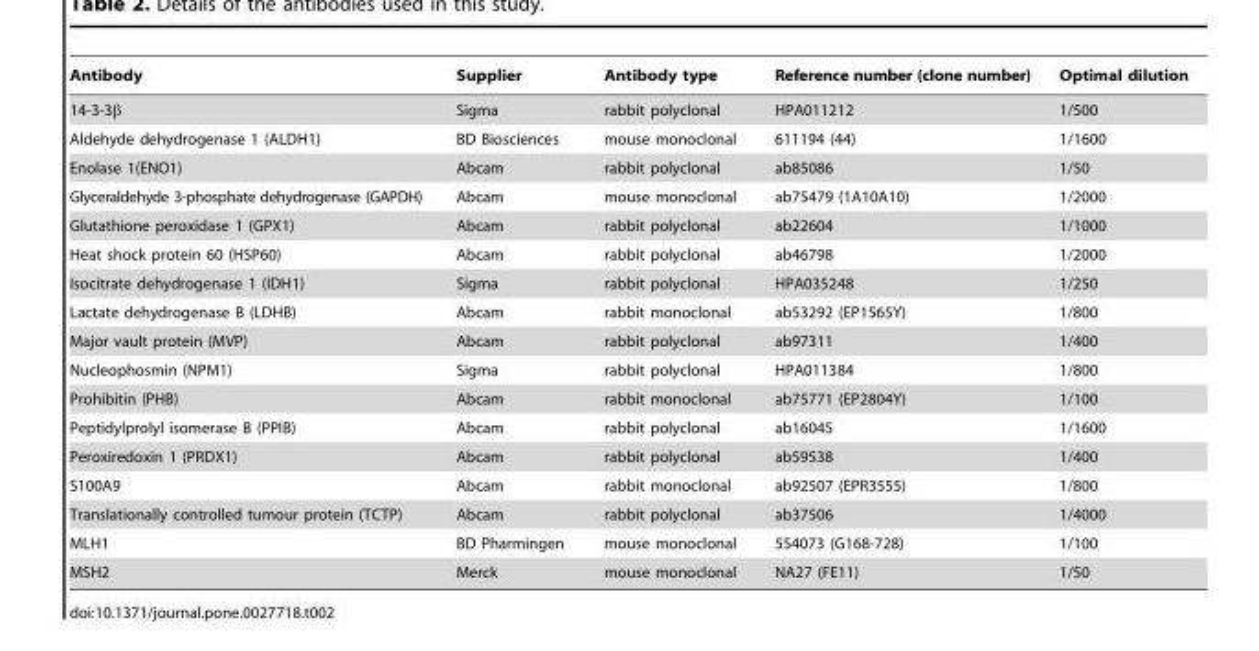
<table><thead><tr><td>Antibody</td><td>Supplier</td><td>Antibody type</td><td>Reference number (clone number)</td><td>Optimal dilution</td></tr></thead><tbody><tr><td>14-3-3β</td><td>Sigma</td><td>rabbit polyclonal</td><td>HPA011212</td><td>1/500</td></tr><tr><td>Aldehyde dehydrogenase 1 (ALDH1)</td><td>BD Biosciences</td><td>mouse monoclonal</td><td>611194 (44)</td><td>1/1600</td></tr><tr><td>Enolase 1(ENO1)</td><td>Abcam</td><td>rabbit polyclonal</td><td>ab85086</td><td>1/50</td></tr><tr><td>Glyceraldehyde 3-phosphate dehydrogenase (GAPDH)</td><td>Abcam</td><td>mouse monoclonal</td><td>ab75479 (1A10A10)</td><td>1/2000</td></tr><tr><td>Glutathione peroxidase 1 (GPX1)</td><td>Abcam</td><td>rabbit polyclonal</td><td>ab22604</td><td>1/1000</td></tr><tr><td>Heat shock protein 60 (HSP60)</td><td>Abcam</td><td>rabbit polyclonal</td><td>ab46798</td><td>1/2000</td></tr><tr><td>Isocitrate dehydrogenase 1 (IDH1)</td><td>Sigma</td><td>rabbit polyclonal</td><td>HPA035248</td><td>1/250</td></tr><tr><td>Lactate dehydrogenase B (LDHB)</td><td>Abcam</td><td>rabbit monoclonal</td><td>ab53292 (EP1565Y)</td><td>1/800</td></tr><tr><td>Major vault protein (MVP)</td><td>Abcam</td><td>rabbit polyclonal</td><td>ab97311</td><td>1/400</td></tr><tr><td>Nucleophosmin (NPM1)</td><td>Sigma</td><td>rabbit polyclonal</td><td>HPA011384</td><td>1/800</td></tr><tr><td>Prohibitin (PHB)</td><td>Abcam</td><td>rabbit monoclonal</td><td>ab75771 (EP2804Y)</td><td>1/100</td></tr><tr><td>Peptidylprolyl isomerase B (PPIB)</td><td>Abcam</td><td>rabbit polyclonal</td><td>ab16045</td><td>1/1600</td></tr><tr><td>Peroxiredoxin 1 (PRDX1)</td><td>Abcam</td><td>rabbit polyclonal</td><td>ab59538</td><td>1/400</td></tr><tr><td>S100A9</td><td>Abcam</td><td>rabbit monoclonal</td><td>ab92507 (EPR3555)</td><td>1/800</td></tr><tr><td>Translationally controlled tumour protein (TCTP)</td><td>Abcam</td><td>rabbit polyclonal</td><td>ab37506</td><td>1/4000</td></tr><tr><td>MLH1</td><td>BD Pharmingen</td><td>mouse monoclonal</td><td>554073 (G168-728)</td><td>1/100</td></tr><tr><td>MSH2</td><td>Merck</td><td>mouse monoclonal</td><td>NA27 (FE11)</td><td>1/50</td></tr></tbody></table>